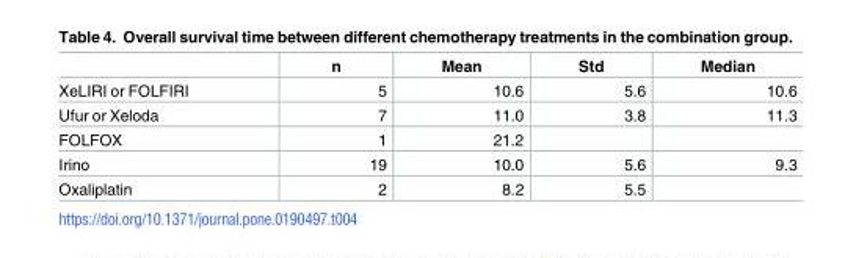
<table><thead><tr><td></td><td>n</td><td>Mean</td><td>Std</td><td>Median</td></tr></thead><tbody><tr><td>XeLIRI or FOLFIRI</td><td>5</td><td>10.6</td><td>5.6</td><td>10.6</td></tr><tr><td>Ufur or Xeloda</td><td>7</td><td>11.0</td><td>3.8</td><td>11.3</td></tr><tr><td>FOLFOX</td><td>1</td><td>21.2</td><td></td><td></td></tr><tr><td>Irino</td><td>19</td><td>10.0</td><td>5.6</td><td>9.3</td></tr><tr><td>Oxaliplatin</td><td>2</td><td>8.2</td><td>5.5</td><td></td></tr></tbody></table>